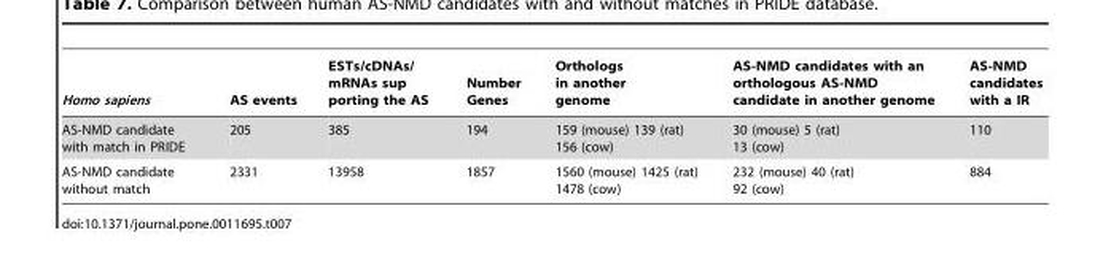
<table><thead><tr><td>Homo sapiens</td><td>AS events</td><td>ESTs/cDNAs/ mRNAs sup porting the AS</td><td>Number Genes</td><td>Orthologs in another genome</td><td>AS-NMD candidates with an orthologous AS-NMD candidate in another genome</td><td>AS-NMD candidates with a IR</td></tr></thead><tbody><tr><td>AS-NMD candidate with match in PRIDE</td><td>205</td><td>385</td><td>194</td><td>159 (mouse) 139 (rat) 156 (cow)</td><td>30 (mouse) 5 (rat) 13 (cow)</td><td>110</td></tr><tr><td>AS-NMD candidate without match</td><td>2331</td><td>13958</td><td>1857</td><td>1560 (mouse) 1425 (rat) 1478 (cow)</td><td>232 (mouse) 40 (rat) 92 (cow)</td><td>884</td></tr></tbody></table>